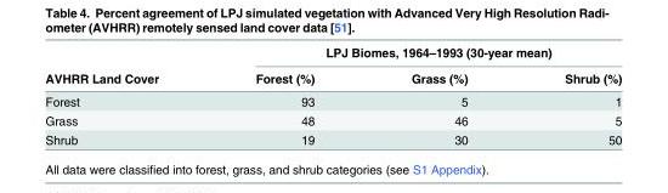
<table><thead><tr><td rowspan="2">AVHRR Land Cover</td><td colspan="3">LPJ Biomes, 1964–1993 (30-year mean)</td></tr><tr><td>Forest (%)</td><td>Grass (%)</td><td>Shrub (%)</td></tr></thead><tbody><tr><td>Forest</td><td>93</td><td>5</td><td>1</td></tr><tr><td>Grass</td><td>48</td><td>46</td><td>5</td></tr><tr><td>Shrub</td><td>19</td><td>30</td><td>50</td></tr></tbody></table>